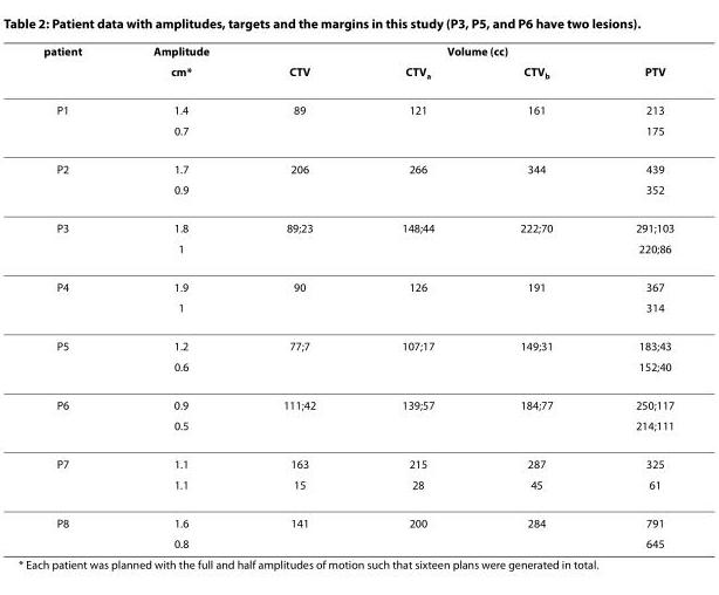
<table><thead><tr><td rowspan="2">patient</td><td rowspan="2">Amplitude cm*</td><td colspan="4">Volume (cc)</td></tr><tr><td>CTV</td><td>CTV<sub>a</sub></td><td>CTV<sub>b</sub></td><td>PTV</td></tr></thead><tbody><tr><td rowspan="2">P1</td><td>1.4</td><td>89</td><td>121</td><td>161</td><td>213</td></tr><tr><td>0.7</td><td></td><td></td><td></td><td>175</td></tr><tr><td rowspan="2">P2</td><td>1.7</td><td>206</td><td>266</td><td>344</td><td>439</td></tr><tr><td>0.9</td><td></td><td></td><td></td><td>352</td></tr><tr><td rowspan="2">P3</td><td>1.8</td><td>89;23</td><td>148;44</td><td>222;70</td><td>291;103</td></tr><tr><td>1</td><td></td><td></td><td></td><td>220;86</td></tr><tr><td rowspan="2">P4</td><td>1.9</td><td>90</td><td>126</td><td>191</td><td>367</td></tr><tr><td>1</td><td></td><td></td><td></td><td>314</td></tr><tr><td rowspan="2">P5</td><td>1.2</td><td>77;7</td><td>107;17</td><td>149;31</td><td>183;43</td></tr><tr><td>0.6</td><td></td><td></td><td></td><td>152;40</td></tr><tr><td rowspan="2">P6</td><td>0.9</td><td>111;42</td><td>139;57</td><td>184;77</td><td>250;117</td></tr><tr><td>0.5</td><td></td><td></td><td></td><td>214;111</td></tr><tr><td rowspan="2">P7</td><td>1.1</td><td>163</td><td>215</td><td>287</td><td>325</td></tr><tr><td>1.1</td><td>15</td><td>28</td><td>45</td><td>61</td></tr><tr><td rowspan="2">P8</td><td>1.6</td><td>141</td><td>200</td><td>284</td><td>791</td></tr><tr><td>0.8</td><td></td><td></td><td></td><td>645</td></tr></tbody></table>